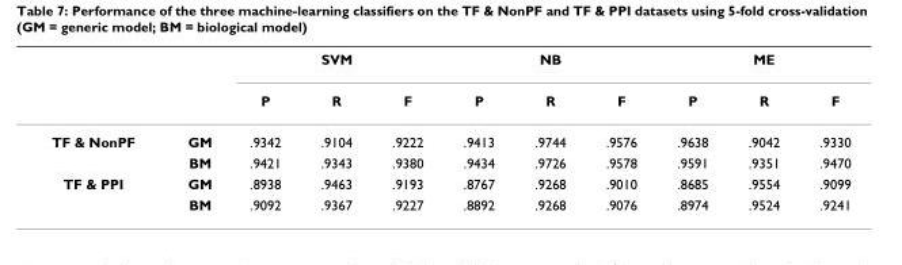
<table><thead><tr><td rowspan="2"></td><td rowspan="2"></td><td colspan="3">SVM</td><td colspan="3">NB</td><td colspan="3">ME</td></tr><tr><td>P</td><td>R</td><td>F</td><td>P</td><td>R</td><td>F</td><td>P</td><td>R</td><td>F</td></tr></thead><tbody><tr><td rowspan="2">TF &amp; NonPF</td><td>GM</td><td>.9342</td><td>.9104</td><td>.9222</td><td>.9413</td><td>.9744</td><td>.9576</td><td>.9638</td><td>.9042</td><td>.9330</td></tr><tr><td>BM</td><td>.9421</td><td>.9343</td><td>.9380</td><td>.9434</td><td>.9726</td><td>.9578</td><td>.9591</td><td>.9351</td><td>.9470</td></tr><tr><td rowspan="2">TF &amp; PPI</td><td>GM</td><td>.8938</td><td>.9463</td><td>.9193</td><td>.8767</td><td>.9268</td><td>.9010</td><td>.8685</td><td>.9554</td><td>.9099</td></tr><tr><td>BM</td><td>.9092</td><td>.9367</td><td>.9227</td><td>.8892</td><td>.9268</td><td>.9076</td><td>.8974</td><td>.9524</td><td>.9241</td></tr></tbody></table>